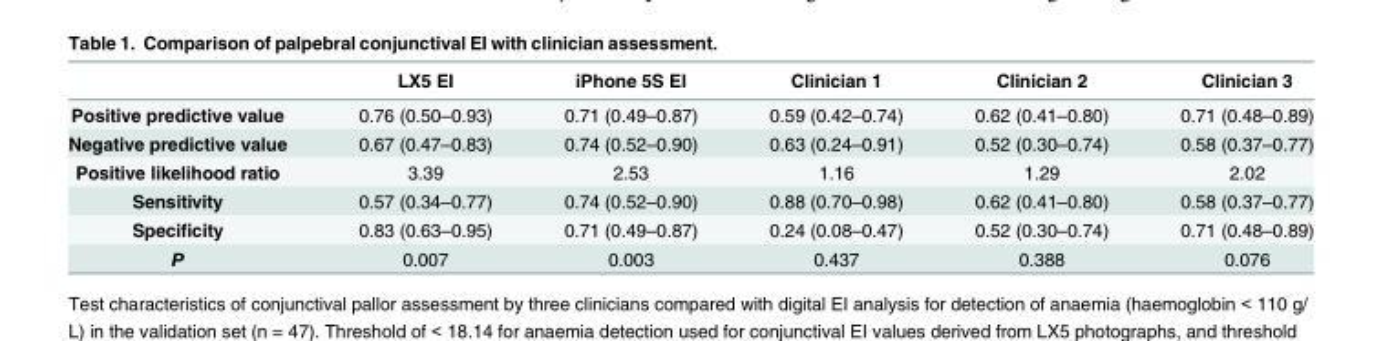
<table><thead><tr><td></td><td>LX5 EI</td><td>iPhone 5S EI</td><td>Clinician 1</td><td>Clinician 2</td><td>Clinician 3</td></tr></thead><tbody><tr><td>Positive predictive value</td><td>0.76 (0.50–0.93)</td><td>0.71 (0.49–0.87)</td><td>0.59 (0.42–0.74)</td><td>0.62 (0.41–0.80)</td><td>0.71 (0.48–0.89)</td></tr><tr><td>Negative predictive value</td><td>0.67 (0.47–0.83)</td><td>0.74 (0.52–0.90)</td><td>0.63 (0.24–0.91)</td><td>0.52 (0.30–0.74)</td><td>0.58 (0.37–0.77)</td></tr><tr><td>Positive likelihood ratio</td><td>3.39</td><td>2.53</td><td>1.16</td><td>1.29</td><td>2.02</td></tr><tr><td>Sensitivity</td><td>0.57 (0.34–0.77)</td><td>0.74 (0.52–0.90)</td><td>0.88 (0.70–0.98)</td><td>0.62 (0.41–0.80)</td><td>0.58 (0.37–0.77)</td></tr><tr><td>Specificity</td><td>0.83 (0.63–0.95)</td><td>0.71 (0.49–0.87)</td><td>0.24 (0.08–0.47)</td><td>0.52 (0.30–0.74)</td><td>0.71 (0.48–0.89)</td></tr><tr><td>P</td><td>0.007</td><td>0.003</td><td>0.437</td><td>0.388</td><td>0.076</td></tr></tbody></table>